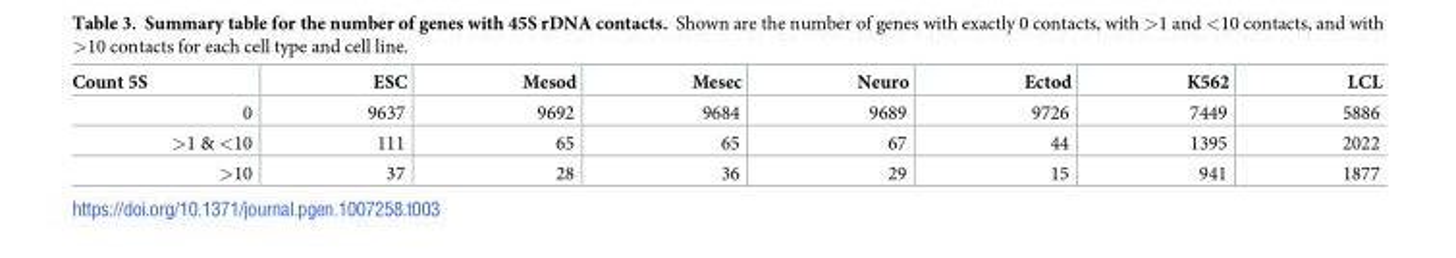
<table><thead><tr><td>Count 5S</td><td>ESC</td><td>Mesod</td><td>Mesec</td><td>Neuro</td><td>Ectod</td><td>K562</td><td>LCL</td></tr></thead><tbody><tr><td>0</td><td>9637</td><td>9692</td><td>9684</td><td>9689</td><td>9726</td><td>7449</td><td>5886</td></tr><tr><td>&gt;1 &amp; &lt;10</td><td>111</td><td>65</td><td>65</td><td>67</td><td>44</td><td>1395</td><td>2022</td></tr><tr><td>&gt;10</td><td>37</td><td>28</td><td>36</td><td>29</td><td>15</td><td>941</td><td>1877</td></tr></tbody></table>